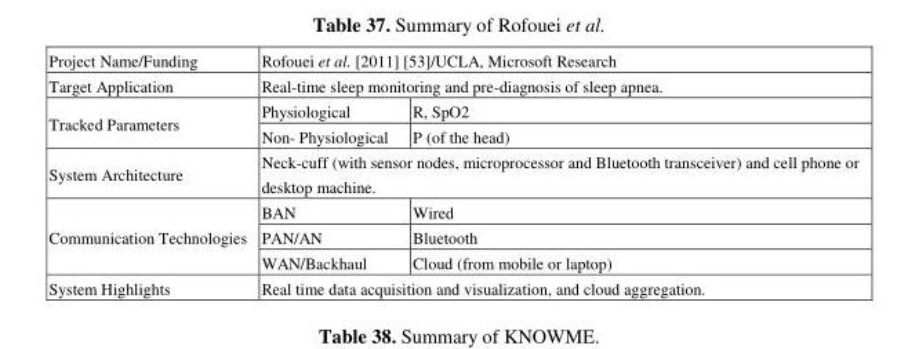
<table><tbody><tr><td>Project Name/Funding</td><td colspan="2">Rofouei et al. [2011] [53]/UCLA, Microsoft Research</td></tr><tr><td>Target Application</td><td colspan="2">Real-time sleep monitoring and pre-diagnosis of sleep apnea.</td></tr><tr><td rowspan="2">Tracked Parameters</td><td>Physiological</td><td>R, SpO2</td></tr><tr><td>Non- Physiological</td><td>P (of the head)</td></tr><tr><td>System Architecture</td><td colspan="2">Neck-cuff (with sensor nodes, microprocessor and Bluetooth transceiver) and cell phone or desktop machine.</td></tr><tr><td rowspan="3">Communication Technologies</td><td>BAN</td><td>Wired</td></tr><tr><td>PAN/AN</td><td>Bluetooth</td></tr><tr><td>WAN/Backhaul</td><td>Cloud (from mobile or laptop)</td></tr><tr><td>System Highlights</td><td colspan="2">Real time data acquisition and visualization, and cloud aggregation.</td></tr></tbody></table>